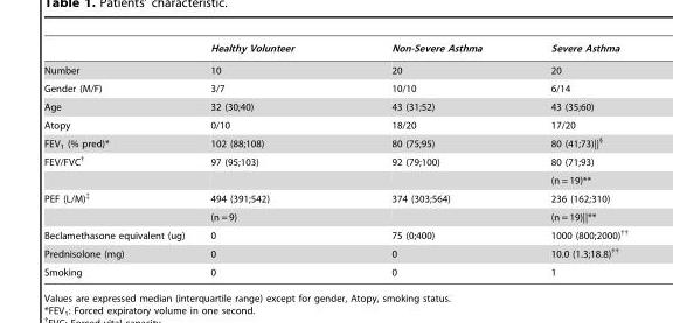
<table><thead><tr><td></td><td>Healthy Volunteer</td><td>Non-Severe Asthma</td><td>Severe Asthma</td></tr></thead><tbody><tr><td>Number</td><td>10</td><td>20</td><td>20</td></tr><tr><td>Gender (M/F)</td><td>3/7</td><td>10/10</td><td>6/14</td></tr><tr><td>Age</td><td>32 (30;40)</td><td>43 (31;52)</td><td>43 (35;60)</td></tr><tr><td>Atopy</td><td>0/10</td><td>18/20</td><td>17/20</td></tr><tr><td>FEV<sub>1</sub> (% pred)*</td><td>102 (88;108)</td><td>80 (75;95)</td><td>80 (41;73)||§</td></tr><tr><td rowspan="2">FEV/FVC†</td><td>97 (95;103)</td><td>92 (79;100)</td><td>80 (71;93)</td></tr><tr><td></td><td></td><td>(n = 19)**</td></tr><tr><td rowspan="2">PEF (L/M)‡</td><td>494 (391;542)</td><td>374 (303;564)</td><td>236 (162;310)</td></tr><tr><td>(n = 9)</td><td></td><td>(n = 19)||**</td></tr><tr><td>Beclamethasone equivalent (ug)</td><td>0</td><td>75 (0;400)</td><td>1000 (800;2000)††</td></tr><tr><td>Prednisolone (mg)</td><td>0</td><td>0</td><td>10.0 (1.3;18.8)††</td></tr><tr><td>Smoking</td><td>0</td><td>0</td><td>1</td></tr></tbody></table>